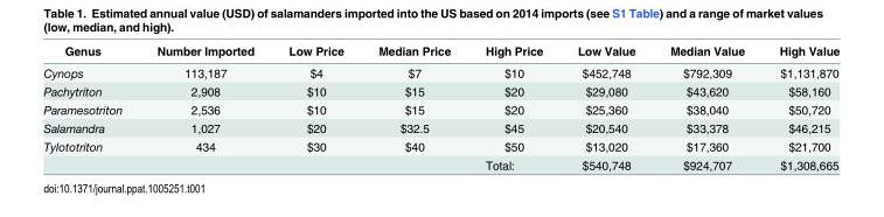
<table><thead><tr><td>Genus</td><td>Number Imported</td><td>Low Price</td><td>Median Price</td><td>High Price</td><td>Low Value</td><td>Median Value</td><td>High Value</td></tr></thead><tbody><tr><td>Cynops</td><td>113,187</td><td>$4</td><td>$7</td><td>$10</td><td>$452,748</td><td>$792,309</td><td>$1,131,870</td></tr><tr><td>Pachytriton</td><td>2,908</td><td>$10</td><td>$15</td><td>$20</td><td>$29,080</td><td>$43,620</td><td>$58,160</td></tr><tr><td>Paramesotriton</td><td>2,536</td><td>$10</td><td>$15</td><td>$20</td><td>$25,360</td><td>$38,040</td><td>$50,720</td></tr><tr><td>Salamandra</td><td>1,027</td><td>$20</td><td>$32.5</td><td>$45</td><td>$20,540</td><td>$33,378</td><td>$46,215</td></tr><tr><td rowspan="2">Tylototriton</td><td>434</td><td>$30</td><td>$40</td><td>$50</td><td>$13,020</td><td>$17,360</td><td>$21,700</td></tr><tr><td></td><td></td><td></td><td>Total:</td><td>$540,748</td><td>$924,707</td><td>$1,308,665</td></tr></tbody></table>